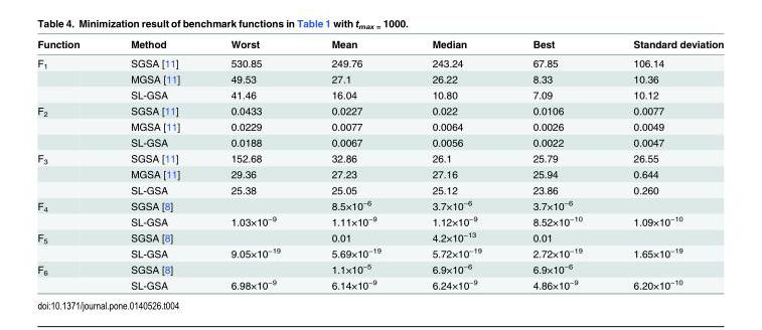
<table><thead><tr><td>Function</td><td>Method</td><td>Worst</td><td>Mean</td><td>Median</td><td>Best</td><td>Standard deviation</td></tr></thead><tbody><tr><td rowspan="3">F<sub>1</sub></td><td>SGSA [11]</td><td>530.85</td><td>249.76</td><td>243.24</td><td>67.85</td><td>106.14</td></tr><tr><td>MGSA [11]</td><td>49.53</td><td>27.1</td><td>26.22</td><td>8.33</td><td>10.36</td></tr><tr><td>SL-GSA</td><td>41.46</td><td>16.04</td><td>10.80</td><td>7.09</td><td>10.12</td></tr><tr><td rowspan="3">F<sub>2</sub></td><td>SGSA [11]</td><td>0.0433</td><td>0.0227</td><td>0.022</td><td>0.0106</td><td>0.0077</td></tr><tr><td>MGSA [11]</td><td>0.0229</td><td>0.0077</td><td>0.0064</td><td>0.0026</td><td>0.0049</td></tr><tr><td>SL-GSA</td><td>0.0188</td><td>0.0067</td><td>0.0056</td><td>0.0022</td><td>0.0047</td></tr><tr><td rowspan="3">F<sub>3</sub></td><td>SGSA [11]</td><td>152.68</td><td>32.86</td><td>26.1</td><td>25.79</td><td>26.55</td></tr><tr><td>MGSA [11]</td><td>29.36</td><td>27.23</td><td>27.16</td><td>25.94</td><td>0.644</td></tr><tr><td>SL-GSA</td><td>25.38</td><td>25.05</td><td>25.12</td><td>23.86</td><td>0.260</td></tr><tr><td rowspan="2">F<sub>4</sub></td><td>SGSA [8]</td><td></td><td>8.5×10<sup>−6</sup></td><td>3.7×10<sup>−6</sup></td><td>3.7×10<sup>−6</sup></td><td></td></tr><tr><td>SL-GSA</td><td>1.03×10<sup>−9</sup></td><td>1.11×10<sup>−9</sup></td><td>1.12×10<sup>−9</sup></td><td>8.52×10<sup>−10</sup></td><td>1.09×10<sup>−10</sup></td></tr><tr><td rowspan="2">F<sub>5</sub></td><td>SGSA [8]</td><td></td><td>0.01</td><td>4.2×10<sup>−13</sup></td><td>0.01</td><td></td></tr><tr><td>SL-GSA</td><td>9.05×10<sup>−19</sup></td><td>5.69×10<sup>−19</sup></td><td>5.72×10<sup>−19</sup></td><td>2.72×10<sup>−19</sup></td><td>1.65×10<sup>−19</sup></td></tr><tr><td rowspan="2">F<sub>6</sub></td><td>SGSA [8]</td><td></td><td>1.1×10<sup>−5</sup></td><td>6.9×10<sup>−6</sup></td><td>6.9×10<sup>−6</sup></td><td></td></tr><tr><td>SL-GSA</td><td>6.98×10<sup>−9</sup></td><td>6.14×10<sup>−9</sup></td><td>6.24×10<sup>−9</sup></td><td>4.86×10<sup>−9</sup></td><td>6.20×10<sup>−10</sup></td></tr></tbody></table>